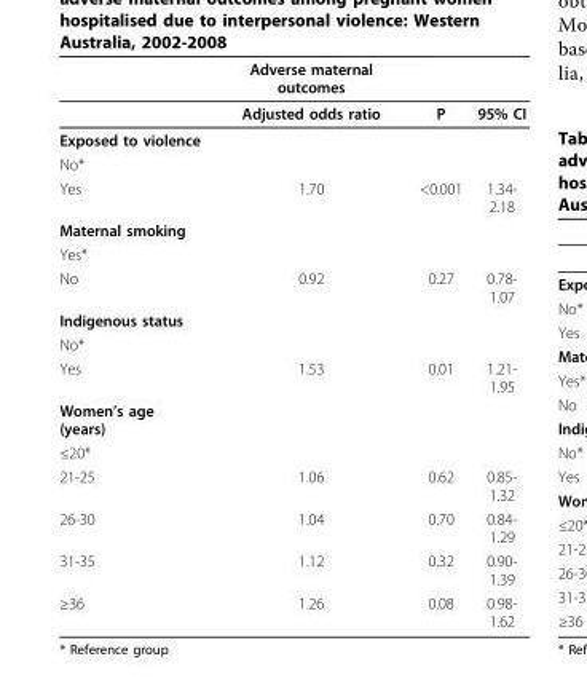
<table><thead><tr><td></td><td>Adverse maternal outcomes</td><td></td><td></td></tr></thead><tbody><tr><td></td><td>Adjusted odds ratio</td><td>P</td><td>95% CI</td></tr><tr><td colspan="4">Exposed to violence</td></tr><tr><td colspan="4">No*</td></tr><tr><td>Yes</td><td>1.70</td><td>&lt;0.001</td><td>1.34- 2.18</td></tr><tr><td colspan="4">Maternal smoking</td></tr><tr><td colspan="4">Yes*</td></tr><tr><td>No</td><td>0.92</td><td>0.27</td><td>0.78- 1.07</td></tr><tr><td colspan="4">Indigenous status</td></tr><tr><td colspan="4">No*</td></tr><tr><td>Yes</td><td>1.53</td><td>0.01</td><td>1.21- 1.95</td></tr><tr><td colspan="4">Women’s age (years)</td></tr><tr><td colspan="4">≤20*</td></tr><tr><td>21-25</td><td>1.06</td><td>0.62</td><td>0.85- 1.32</td></tr><tr><td>26-30</td><td>1.04</td><td>0.70</td><td>0.84- 1.29</td></tr><tr><td>31-35</td><td>1.12</td><td>0.32</td><td>0.90- 1.39</td></tr><tr><td>≥36</td><td>1.26</td><td>0.08</td><td>0.98- 1.62</td></tr></tbody></table>